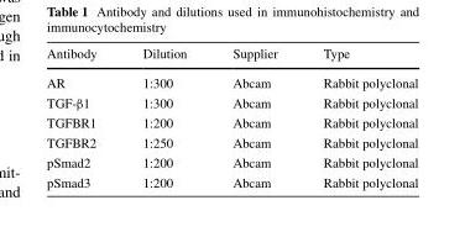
<table><thead><tr><td>Antibody</td><td>Dilution</td><td>Supplier</td><td>Type</td></tr></thead><tbody><tr><td>AR</td><td>1:300</td><td>Abcam</td><td>Rabbit polyclonal</td></tr><tr><td>TGF-β1</td><td>1:300</td><td>Abcam</td><td>Rabbit polyclonal</td></tr><tr><td>TGFBR1</td><td>1:200</td><td>Abcam</td><td>Rabbit polyclonal</td></tr><tr><td>TGFBR2</td><td>1:250</td><td>Abcam</td><td>Rabbit polyclonal</td></tr><tr><td>pSmad2</td><td>1:200</td><td>Abcam</td><td>Rabbit polyclonal</td></tr><tr><td>pSmad3</td><td>1:200</td><td>Abcam</td><td>Rabbit polyclonal</td></tr></tbody></table>